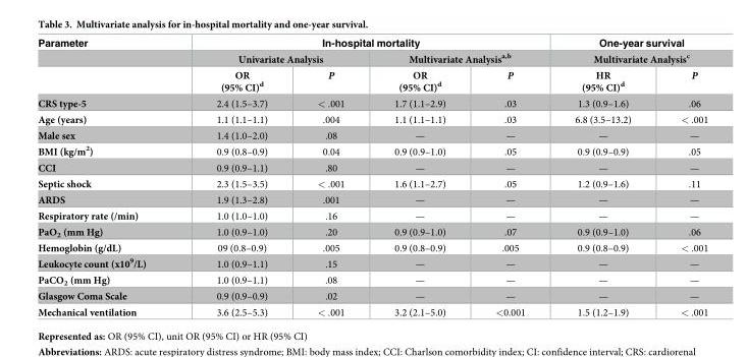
<table><thead><tr><td rowspan="3">Parameter</td><td colspan="4">In-hospital mortality</td><td rowspan="2" colspan="2">One-year survival Multivariate Analysis<sup>c</sup></td></tr><tr><td colspan="2">Univariate Analysis</td><td colspan="2">Multivariate Analysis<sup>a,b</sup></td></tr><tr><td>OR (95% CI)<sup>d</sup></td><td>P</td><td>OR (95% CI)<sup>d</sup></td><td>P</td><td>HR (95% CI)<sup>d</sup></td><td>P</td></tr></thead><tbody><tr><td>CRS type-5</td><td>2.4 (1.5–3.7)</td><td>&lt; .001</td><td>1.7 (1.1–2.9)</td><td>.03</td><td>1.3 (0.9–1.6)</td><td>.06</td></tr><tr><td>Age (years)</td><td>1.1 (1.1–1.1)</td><td>.004</td><td>1.1 (1.1–1.1)</td><td>.03</td><td>6.8 (3.5–13.2)</td><td>&lt; .001</td></tr><tr><td>Male sex</td><td>1.4 (1.0–2.0)</td><td>.08</td><td>—</td><td>—</td><td>—</td><td>—</td></tr><tr><td>BMI (kg/m<sup>2</sup>)</td><td>0.9 (0.8–0.9)</td><td>0.04</td><td>0.9 (0.9–1.0)</td><td>.05</td><td>0.9 (0.9–0.9)</td><td>.05</td></tr><tr><td>CCI</td><td>0.9 (0.9–1.1)</td><td>.80</td><td>—</td><td>—</td><td>—</td><td>—</td></tr><tr><td>Septic shock</td><td>2.3 (1.5–3.5)</td><td>&lt; .001</td><td>1.6 (1.1–2.7)</td><td>.05</td><td>1.2 (0.9–1.6)</td><td>.11</td></tr><tr><td>ARDS</td><td>1.9 (1.3–2.8)</td><td>.001</td><td>—</td><td>—</td><td>—</td><td>—</td></tr><tr><td>Respiratory rate (/min)</td><td>1.0 (1.0–1.0)</td><td>.16</td><td>—</td><td>—</td><td>—</td><td>—</td></tr><tr><td>PaO<sub>2</sub> (mm Hg)</td><td>1.0 (0.9–1.0)</td><td>.20</td><td>0.9 (0.9–1.0)</td><td>.07</td><td>0.9 (0.9–1.0)</td><td>.06</td></tr><tr><td>Hemoglobin (g/dL)</td><td>09 (0.8–0.9)</td><td>.005</td><td>0.9 (0.8–0.9)</td><td>.005</td><td>0.9 (0.8–0.9)</td><td>&lt; .001</td></tr><tr><td>Leukocyte count (x10<sup>9</sup>/L)</td><td>1.0 (0.9–1.1)</td><td>.15</td><td>—</td><td>—</td><td>—</td><td>—</td></tr><tr><td>PaCO<sub>2</sub> (mm Hg)</td><td>1.0 (0.9–1.1)</td><td>.08</td><td>—</td><td>—</td><td>—</td><td>—</td></tr><tr><td>Glasgow Coma Scale</td><td>0.9 (0.9–0.9)</td><td>.02</td><td>—</td><td>—</td><td>—</td><td>—</td></tr><tr><td>Mechanical ventilation</td><td>3.6 (2.5–5.3)</td><td>&lt; .001</td><td>3.2 (2.1–5.0)</td><td>&lt;0.001</td><td>1.5 (1.2–1.9)</td><td>&lt; .001</td></tr></tbody></table>